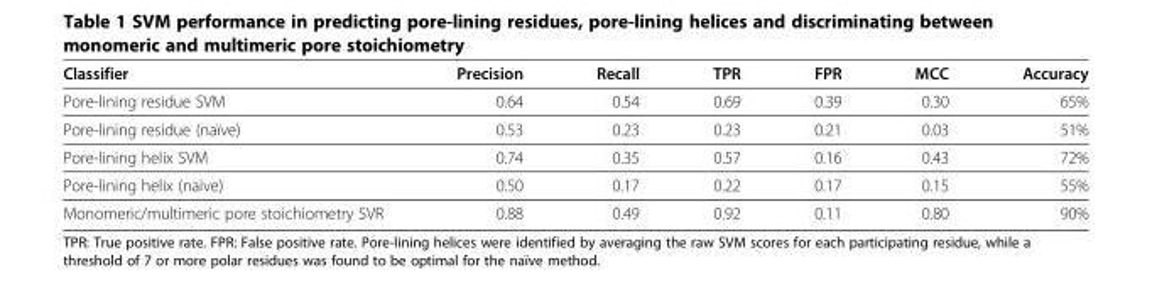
<table><thead><tr><td>Classifier</td><td>Precision</td><td>Recall</td><td>TPR</td><td>FPR</td><td>MCC</td><td>Accuracy</td></tr></thead><tbody><tr><td>Pore-lining residue SVM</td><td>0.64</td><td>0.54</td><td>0.69</td><td>0.39</td><td>0.30</td><td>65%</td></tr><tr><td>Pore-lining residue (naïve)</td><td>0.53</td><td>0.23</td><td>0.23</td><td>0.21</td><td>0.03</td><td>51%</td></tr><tr><td>Pore-lining helix SVM</td><td>0.74</td><td>0.35</td><td>0.57</td><td>0.16</td><td>0.43</td><td>72%</td></tr><tr><td>Pore-lining helix (naïve)</td><td>0.50</td><td>0.17</td><td>0.22</td><td>0.17</td><td>0.15</td><td>55%</td></tr><tr><td>Monomeric/multimeric pore stoichiometry SVR</td><td>0.88</td><td>0.49</td><td>0.92</td><td>0.11</td><td>0.80</td><td>90%</td></tr></tbody></table>